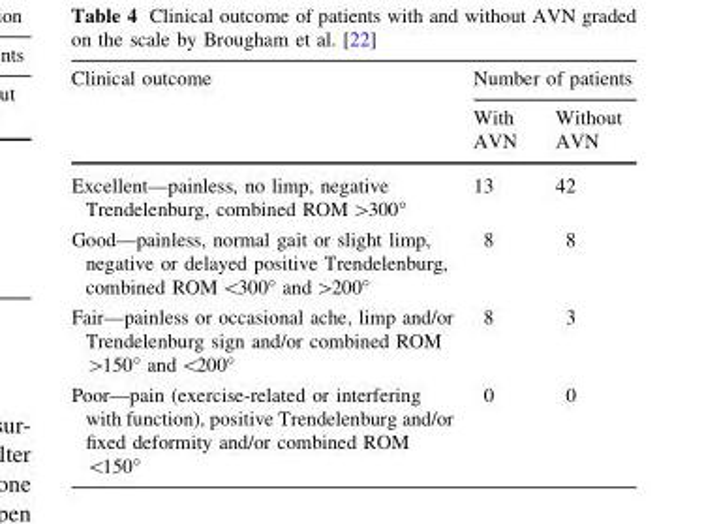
<table><thead><tr><td rowspan="2">Clinical outcome</td><td colspan="2">Number of patients</td></tr><tr><td>With AVN</td><td>Without AVN</td></tr></thead><tbody><tr><td>Excellent—painless, no limp, negative Trendelenburg, combined ROM &gt;300°</td><td>13</td><td>42</td></tr><tr><td>Good—painless, normal gait or slight limp, negative or delayed positive Trendelenburg, combined ROM &lt;300° and &gt;200°</td><td>8</td><td>8</td></tr><tr><td>Fair—painless or occasional ache, limp and/or Trendelenburg sign and/or combined ROM &gt;150° and &lt;200°</td><td>8</td><td>3</td></tr><tr><td>Poor—pain (exercise-related or interfering with function), positive Trendelenburg and/or fixed deformity and/or combined ROM</td><td>0</td><td>0</td></tr></tbody></table>